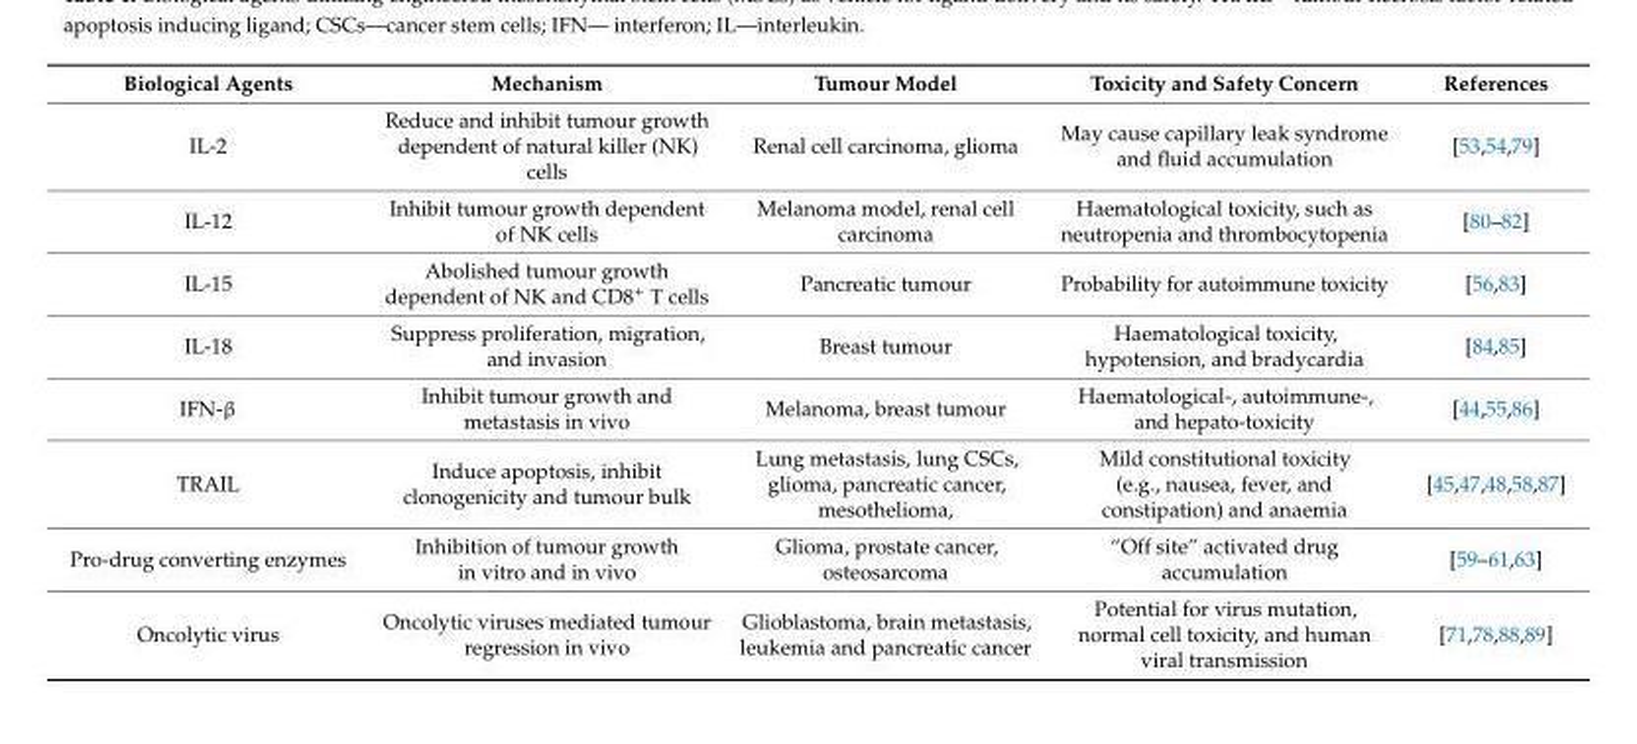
<table><thead><tr><td>Biological Agents</td><td>Mechanism</td><td>Tumour Model</td><td>Toxicity and Safety Concern</td><td>References</td></tr></thead><tbody><tr><td>IL-2</td><td>Reduce and inhibit tumour growth dependent of natural killer (NK) cells</td><td>Renal cell carcinoma, glioma</td><td>May cause capillary leak syndrome and fluid accumulation</td><td>[53,54,79]</td></tr><tr><td>IL-12</td><td>Inhibit tumour growth dependent of NK cells</td><td>Melanoma model, renal cell carcinoma</td><td>Haematological toxicity, such as neutropenia and thrombocytopenia</td><td>[80–82]</td></tr><tr><td>IL-15</td><td>Abolished tumour growth dependent of NK and CD8<sup>+</sup> T cells</td><td>Pancreatic tumour</td><td>Probability for autoimmune toxicity</td><td>[56,83]</td></tr><tr><td>IL-18</td><td>Suppress proliferation, migration, and invasion</td><td>Breast tumour</td><td>Haematological toxicity, hypotension, and bradycardia</td><td>[84,85]</td></tr><tr><td>IFN-β</td><td>Inhibit tumour growth and metastasis in vivo</td><td>Melanoma, breast tumour</td><td>Haematological-, autoimmune-, and hepato-toxicity</td><td>[44,55,86]</td></tr><tr><td>TRAIL</td><td>Induce apoptosis, inhibit clonogenicity and tumour bulk</td><td>Lung metastasis, lung CSCs, glioma, pancreatic cancer, mesothelioma,</td><td>Mild constitutional toxicity (e.g., nausea, fever, and constipation) and anaemia</td><td>[45,47,48,58,87]</td></tr><tr><td>Pro-drug converting enzymes</td><td>Inhibition of tumour growth in vitro and in vivo</td><td>Glioma, prostate cancer, osteosarcoma</td><td>“Off site” activated drug accumulation</td><td>[59–61,63]</td></tr><tr><td>Oncolytic virus</td><td>Oncolytic viruses mediated tumour regression in vivo</td><td>Glioblastoma, brain metastasis, leukemia and pancreatic cancer</td><td>Potential for virus mutation, normal cell toxicity, and human viral transmission</td><td>[71,78,88,89]</td></tr></tbody></table>